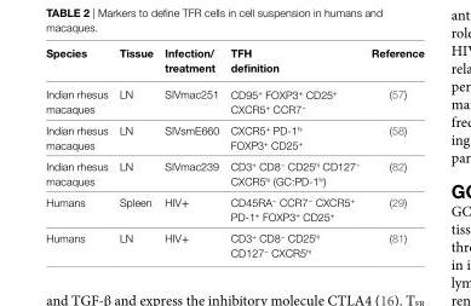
<table><thead><tr><td>Species</td><td>Tissue</td><td>infection/ treatment</td><td>TFH definition</td><td>Reference</td></tr></thead><tbody><tr><td>Indian rhesus macaques</td><td>LN</td><td>SIVmac251</td><td>CD95<sup>+</sup> FOXP3<sup>+</sup> CD25<sup>+</sup> CXCR5<sup>+</sup> CCR7<sup>−</sup></td><td>(57)</td></tr><tr><td>Indian rhesus macaques</td><td>LN</td><td>SIVsmE660</td><td>CXCR5<sup>+</sup> PD-1<sup>hi</sup> FOXP3<sup>+</sup> CD25<sup>+</sup></td><td>(58)</td></tr><tr><td>Indian rhesus macaques</td><td>LN</td><td>SIVmac239</td><td>CD3<sup>+</sup> CD8<sup>−</sup> CD25<sup>hi</sup> CD127<sup>−</sup> CXCR5<sup>hi</sup> (GC:PD-1<sup>hi</sup>)</td><td>(82)</td></tr><tr><td>Humans</td><td>Spleen</td><td>HIV+</td><td>CD45RA<sup>−</sup> CCR7<sup>−</sup> CXCR5<sup>+</sup> PD-1<sup>+</sup> FOXP3<sup>+</sup> CD25<sup>+</sup></td><td>(29)</td></tr><tr><td>Humans</td><td>LN</td><td>HIV+</td><td>CD3<sup>+</sup> CD8<sup>−</sup> CD25<sup>hi</sup> CD127<sup>−</sup> CXCR5<sup>hi</sup></td><td>(81)</td></tr></tbody></table>